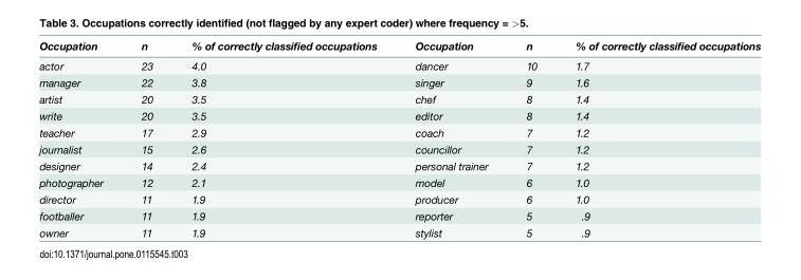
<table><thead><tr><td>Occupation</td><td>n</td><td>% of correctly classified occupations</td><td>Occupation</td><td>n</td><td>% of correctly classified occupations</td></tr></thead><tbody><tr><td>actor</td><td>23</td><td>4.0</td><td>dancer</td><td>10</td><td>1.7</td></tr><tr><td>manager</td><td>22</td><td>3.8</td><td>singer</td><td>9</td><td>1.6</td></tr><tr><td>artist</td><td>20</td><td>3.5</td><td>chef</td><td>8</td><td>1.4</td></tr><tr><td>write</td><td>20</td><td>3.5</td><td>editor</td><td>8</td><td>1.4</td></tr><tr><td>teacher</td><td>17</td><td>2.9</td><td>coach</td><td>7</td><td>1.2</td></tr><tr><td>journalist</td><td>15</td><td>2.6</td><td>councillor</td><td>7</td><td>1.2</td></tr><tr><td>designer</td><td>14</td><td>2.4</td><td>personal trainer</td><td>7</td><td>1.2</td></tr><tr><td>photographer</td><td>12</td><td>2.1</td><td>model</td><td>6</td><td>1.0</td></tr><tr><td>director</td><td>11</td><td>1.9</td><td>producer</td><td>6</td><td>1.0</td></tr><tr><td>footballer</td><td>11</td><td>1.9</td><td>reporter</td><td>5</td><td>.9</td></tr><tr><td>owner</td><td>11</td><td>1.9</td><td>stylist</td><td>5</td><td>.9</td></tr></tbody></table>